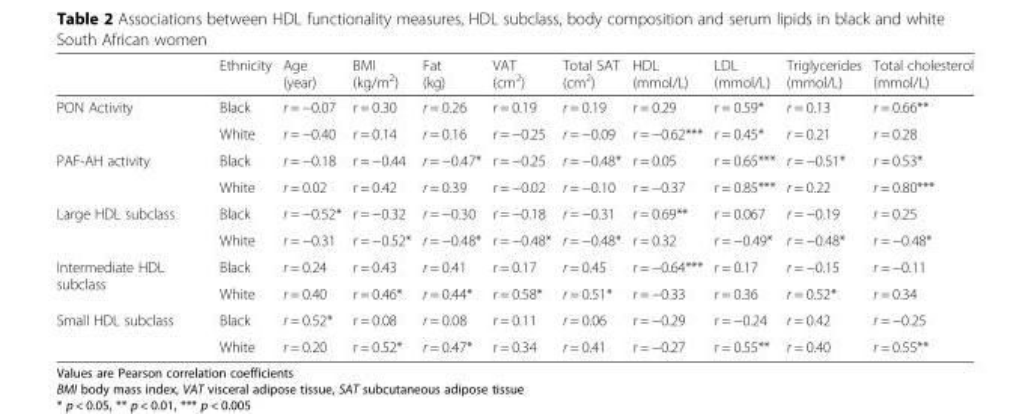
<table><thead><tr><td></td><td>Ethnicity</td><td>Age (year)</td><td>BMI (kg/m<sup>2</sup>)</td><td>Fat (kg)</td><td>VAT (cm<sup>2</sup>)</td><td>Total SAT (cm<sup>2</sup>)</td><td>HDL (mmol/L)</td><td>LDL (mmol/L)</td><td>Triglycerides (mmol/L)</td><td>Total cholesterol (mmol/L)</td></tr></thead><tbody><tr><td rowspan="2">PON Activity</td><td>Black</td><td>r = −0.07</td><td>r = 0.30</td><td>r = 0.26</td><td>r = 0.19</td><td>r = 0.19</td><td>r = 0.29</td><td>r = 0.59*</td><td>r = 0.13</td><td>r = 0.66**</td></tr><tr><td>White</td><td>r = −0.40</td><td>r = 0.14</td><td>r = 0.16</td><td>r = −0.25</td><td>r = −0.09</td><td>r = −0.62***</td><td>r = 0.45*</td><td>r = 0.21</td><td>r = 0.28</td></tr><tr><td rowspan="2">PAF-AH activity</td><td>Black</td><td>r = −0.18</td><td>r = −0.44</td><td>r = −0.47*</td><td>r = −0.25</td><td>r = −0.48*</td><td>r = 0.05</td><td>r = 0.65***</td><td>r = −0.51*</td><td>r = 0.53*</td></tr><tr><td>White</td><td>r = 0.02</td><td>r = 0.42</td><td>r = 0.39</td><td>r = −0.02</td><td>r = −0.10</td><td>r = −0.37</td><td>r = 0.85***</td><td>r = 0.22</td><td>r = 0.80***</td></tr><tr><td rowspan="2">Large HDL subclass</td><td>Black</td><td>r = −0.52*</td><td>r = −0.32</td><td>r = −0.30</td><td>r = −0.18</td><td>r = −0.31</td><td>r = 0.69**</td><td>r = 0.067</td><td>r = −0.19</td><td>r = 0.25</td></tr><tr><td>White</td><td>r = −0.31</td><td>r = −0.52*</td><td>r = −0.48*</td><td>r = −0.48*</td><td>r = −0.48*</td><td>r = 0.32</td><td>r = −0.49*</td><td>r = −0.48*</td><td>r = −0.48*</td></tr><tr><td rowspan="2">Intermediate HDL subclass</td><td>Black</td><td>r = 0.24</td><td>r = 0.43</td><td>r = 0.41</td><td>r = 0.17</td><td>r = 0.45</td><td>r = −0.64***</td><td>r = 0.17</td><td>r = −0.15</td><td>r = −0.11</td></tr><tr><td>White</td><td>r = 0.40</td><td>r = 0.46*</td><td>r = 0.44*</td><td>r = 0.58*</td><td>r = 0.51*</td><td>r = −0.33</td><td>r = 0.36</td><td>r = 0.52*</td><td>r = 0.34</td></tr><tr><td rowspan="2">Small HDL subclass</td><td>Black</td><td>r = 0.52*</td><td>r = 0.08</td><td>r = 0.08</td><td>r = 0.11</td><td>r = 0.06</td><td>r = −0.29</td><td>r = −0.24</td><td>r = 0.42</td><td>r = −0.25</td></tr><tr><td>White</td><td>r = 0.20</td><td>r = 0.52*</td><td>r = 0.47*</td><td>r = 0.34</td><td>r = 0.41</td><td>r = −0.27</td><td>r = 0.55**</td><td>r = 0.40</td><td>r = 0.55**</td></tr></tbody></table>